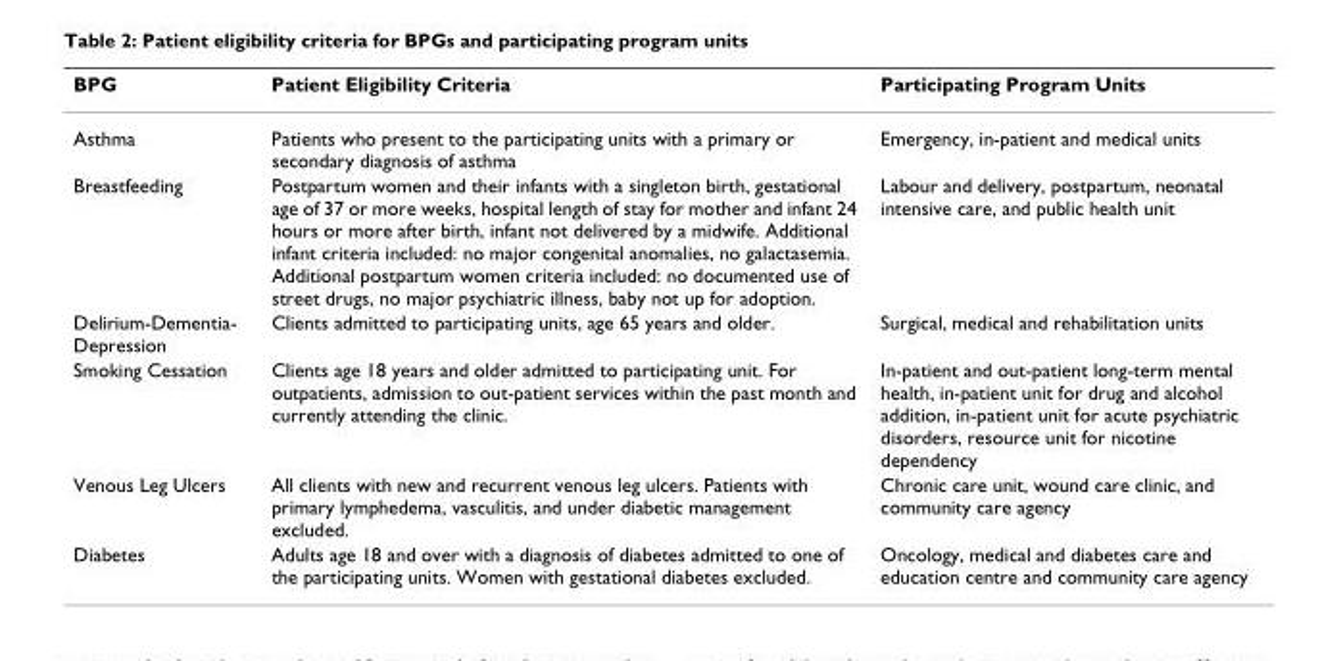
<table><thead><tr><td>BPG</td><td>Patient Eligibility Criteria</td><td>Participating Program Units</td></tr></thead><tbody><tr><td>Asthma</td><td>Patients who present to the participating units with a primary or secondary diagnosis of asthma</td><td>Emergency, in-patient and medical units</td></tr><tr><td>Breastfeeding</td><td>Postpartum women and their infants with a singleton birth, gestational age of 37 or more weeks, hospital length of stay for mother and infant 24 hours or more after birth, infant not delivered by a midwife. Additional infant criteria included: no major congenital anomalies, no galactasemia. Additional postpartum women criteria included: no documented use of street drugs, no major psychiatric illness, baby not up for adoption.</td><td>Labour and delivery, postpartum, neonatal intensive care, and public health unit</td></tr><tr><td>Delirium-Dementia- Depression</td><td>Clients admitted to participating units, age 65 years and older.</td><td>Surgical, medical and rehabilitation units</td></tr><tr><td>Smoking Cessation</td><td>Clients age 18 years and older admitted to participating unit. For outpatients, admission to out-patient services within the past month and currently attending the clinic.</td><td>In-patient and out-patient long-term mental health, in-patient unit for drug and alcohol addition, in-patient unit for acute psychiatric disorders, resource unit for nicotine dependency</td></tr><tr><td>Venous Leg Ulcers</td><td>All clients with new and recurrent venous leg ulcers. Patients with primary lymphedema, vasculitis, and under diabetic management excluded.</td><td>Chronic care unit, wound care clinic, and community care agency</td></tr><tr><td>Diabetes</td><td>Adults age 18 and over with a diagnosis of diabetes admitted to one of the participating units. Women with gestational diabetes excluded.</td><td>Oncology, medical and diabetes care and education centre and community care agency</td></tr></tbody></table>